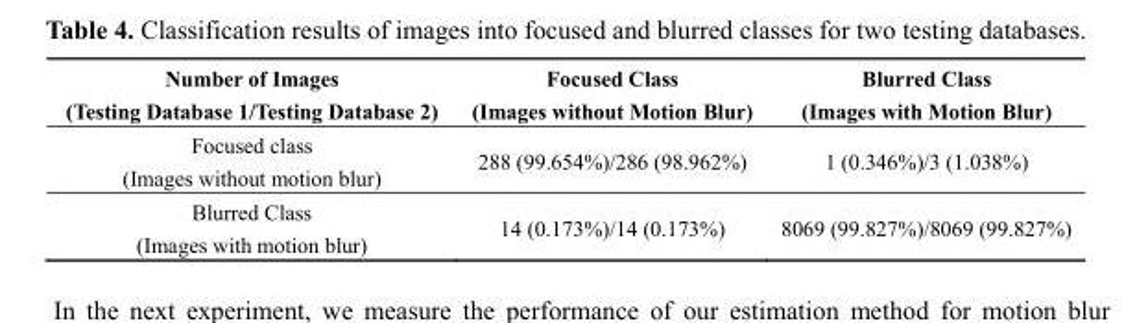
<table><thead><tr><td>Number of Images (Testing Database 1/Testing Database 2)</td><td>Focused Class (Images without Motion Blur)</td><td>Blurred Class (Images with Motion Blur)</td></tr></thead><tbody><tr><td>Focused class (Images without motion blur)</td><td>288 (99.654%)/286 (98.962%)</td><td>1 (0.346%)/3 (1.038%)</td></tr><tr><td>Blurred Class (Images with motion blur)</td><td>14 (0.173%)/14 (0.173%)</td><td>8069 (99.827%)/8069 (99.827%)</td></tr></tbody></table>